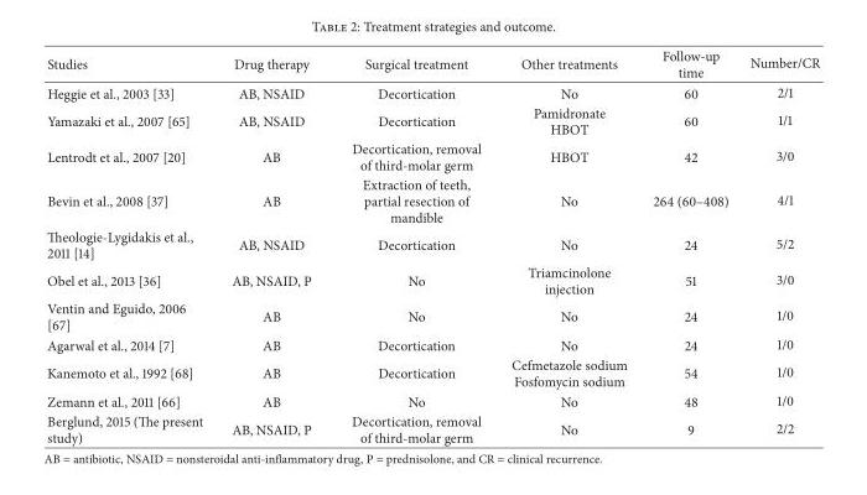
<table><thead><tr><td>Studies</td><td>Drug therapy</td><td>Surgical treatment</td><td>Other treatments</td><td>Follow-up time</td><td>Number/CR</td></tr></thead><tbody><tr><td>Heggie et al., 2003 [33]</td><td>AB, NSAID</td><td>Decortication</td><td>No</td><td>60</td><td>2/1</td></tr><tr><td>Yamazaki et al., 2007 [65]</td><td>AB, NSAID</td><td>Decortication</td><td>Pamidronate HBOT</td><td>60</td><td>1/1</td></tr><tr><td>Lentrodt et al., 2007 [20]</td><td>AB</td><td>Decortication, removal of third-molar germ</td><td>HBOT</td><td>42</td><td>3/0</td></tr><tr><td>Bevin et al., 2008 [37]</td><td>AB</td><td>Extraction of teeth, partial resection of mandible</td><td>No</td><td>264 (60–408)</td><td>4/1</td></tr><tr><td>Theologie-Lygidakis et al., 2011 [14]</td><td>AB, NSAID</td><td>Decortication</td><td>No</td><td>24</td><td>5/2</td></tr><tr><td>Obel et al., 2013 [36]</td><td>AB, NSAID, P</td><td>No</td><td>Triamcinolone injection</td><td>51</td><td>3/0</td></tr><tr><td>Ventin and Eguido, 2006 [67]</td><td>AB</td><td>No</td><td>No</td><td>24</td><td>1/0</td></tr><tr><td>Agarwal et al., 2014 [7]</td><td>AB</td><td>Decortication</td><td>No</td><td>24</td><td>1/0</td></tr><tr><td>Kanemoto et al., 1992 [68]</td><td>AB</td><td>Decortication</td><td>Cefmetazole sodium Fosfomycin sodium</td><td>54</td><td>1/0</td></tr><tr><td>Zemann et al., 2011 [66]</td><td>AB</td><td>No</td><td>No</td><td>48</td><td>1/0</td></tr><tr><td>Berglund, 2015 (The present study)</td><td>AB, NSAID, P</td><td>Decortication, removal of third-molar germ</td><td>No</td><td>9</td><td>2/2</td></tr></tbody></table>